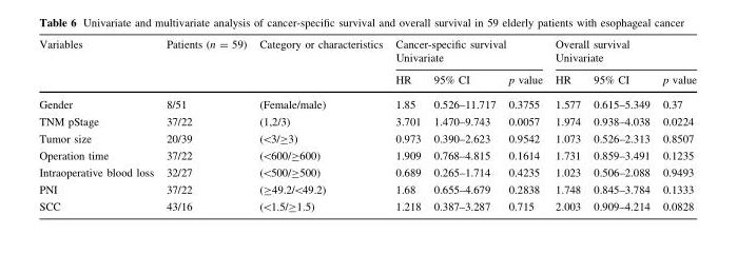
<table><thead><tr><td rowspan="2">Variables</td><td rowspan="2">Patients (n = 59)</td><td rowspan="2">Category or characteristics</td><td colspan="3">Cancer-specific survival Univariate</td><td colspan="3">Overall survival Univariate</td></tr><tr><td>HR</td><td>95% CI</td><td>p value</td><td>HR</td><td>95% CI</td><td>p value</td></tr></thead><tbody><tr><td>Gender</td><td>8/51</td><td>(Female/male)</td><td>1.85</td><td>0.526–11.717</td><td>0.3755</td><td>1.577</td><td>0.615–5.349</td><td>0.37</td></tr><tr><td>TNM pStage</td><td>37/22</td><td>(1,2/3)</td><td>3.701</td><td>1.470–9.743</td><td>0.0057</td><td>1.974</td><td>0.938–4.038</td><td>0.0224</td></tr><tr><td>Tumor size</td><td>20/39</td><td>(&lt;3/≥3)</td><td>0.973</td><td>0.390–2.623</td><td>0.9542</td><td>1.073</td><td>0.526–2.313</td><td>0.8507</td></tr><tr><td>Operation time</td><td>37/22</td><td>(&lt;600/≥600)</td><td>1.909</td><td>0.768–4.815</td><td>0.1614</td><td>1.731</td><td>0.859–3.491</td><td>0.1235</td></tr><tr><td>Intraoperative blood loss</td><td>32/27</td><td>(&lt;500/≥500)</td><td>0.689</td><td>0.265–1.714</td><td>0.4235</td><td>1.023</td><td>0.506–2.088</td><td>0.9493</td></tr><tr><td>PNI</td><td>37/22</td><td>(≥49.2/&lt;49.2)</td><td>1.68</td><td>0.655–4.679</td><td>0.2838</td><td>1.748</td><td>0.845–3.784</td><td>0.1333</td></tr><tr><td>SCC</td><td>43/16</td><td>(&lt;1.5/≥1.5)</td><td>1.218</td><td>0.387–3.287</td><td>0.715</td><td>2.003</td><td>0.909–4.214</td><td>0.0828</td></tr></tbody></table>